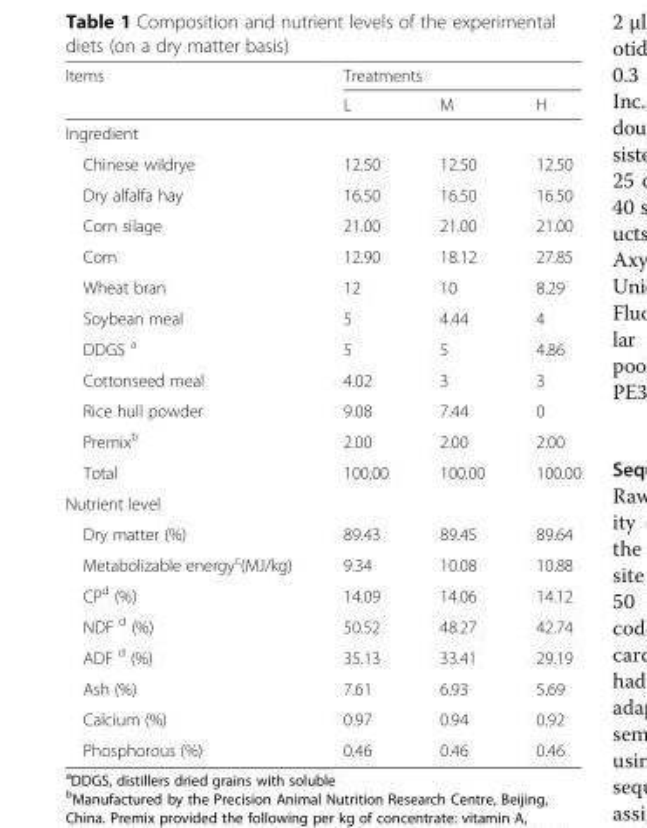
<table><thead><tr><td rowspan="2">Items</td><td colspan="3">Treatments</td></tr><tr><td>L</td><td>M</td><td>H</td></tr></thead><tbody><tr><td colspan="4">Ingredient</td></tr><tr><td>Chinese wildrye</td><td>12.50</td><td>12.50</td><td>12.50</td></tr><tr><td>Dry alfalfa hay</td><td>16.50</td><td>16.50</td><td>16.50</td></tr><tr><td>Corn silage</td><td>21.00</td><td>21.00</td><td>21.00</td></tr><tr><td>Corn</td><td>12.90</td><td>18.12</td><td>27.85</td></tr><tr><td>Wheat bran</td><td>12</td><td>10</td><td>8.29</td></tr><tr><td>Soybean meal</td><td>5</td><td>4.44</td><td>4</td></tr><tr><td>DDGS <sup>a</sup></td><td>5</td><td>5</td><td>4.86</td></tr><tr><td>Cottonseed meal</td><td>4.02</td><td>3</td><td>3</td></tr><tr><td>Rice hull powder</td><td>9.08</td><td>7.44</td><td>0</td></tr><tr><td>Premix<sup>b</sup></td><td>2.00</td><td>2.00</td><td>2.00</td></tr><tr><td>Total</td><td>100.00</td><td>100.00</td><td>100.00</td></tr><tr><td colspan="4">Nutrient level</td></tr><tr><td>Dry matter (%)</td><td>89.43</td><td>89.45</td><td>89.64</td></tr><tr><td>Metabolizable energy<sup>c</sup>(MJ/kg)</td><td>9.34</td><td>10.08</td><td>10.88</td></tr><tr><td>CP<sup>d</sup> (%)</td><td>14.09</td><td>14.06</td><td>14.12</td></tr><tr><td>NDF <sup>d</sup> (%)</td><td>50.52</td><td>48.27</td><td>42.74</td></tr><tr><td>ADF <sup>d</sup> (%)</td><td>35.13</td><td>33.41</td><td>29.19</td></tr><tr><td>Ash (%)</td><td>7.61</td><td>6.93</td><td>5.69</td></tr><tr><td>Calcium (%)</td><td>0.97</td><td>0.94</td><td>0.92</td></tr><tr><td>Phosphorous (%)</td><td>0.46</td><td>0.46</td><td>0.46</td></tr></tbody></table>